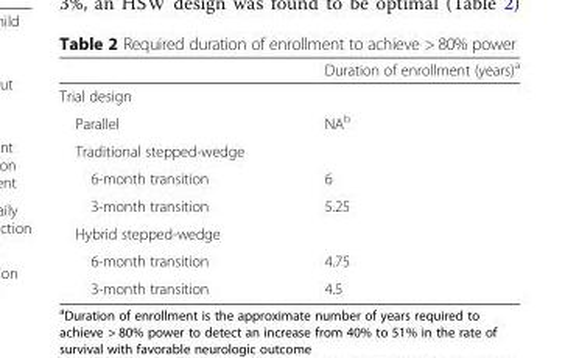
<table><thead><tr><td></td><td>Duration of enrollment (years)<sup>a</sup></td></tr></thead><tbody><tr><td colspan="2">Trial design</td></tr><tr><td>Parallel</td><td>NA<sup>b</sup></td></tr><tr><td colspan="2">Traditional stepped-wedge</td></tr><tr><td>6-month transition</td><td>6</td></tr><tr><td>3-month transition</td><td>5.25</td></tr><tr><td colspan="2">Hybrid stepped-wedge</td></tr><tr><td>6-month transition</td><td>4.75</td></tr><tr><td>3-month transition</td><td>4.5</td></tr></tbody></table>